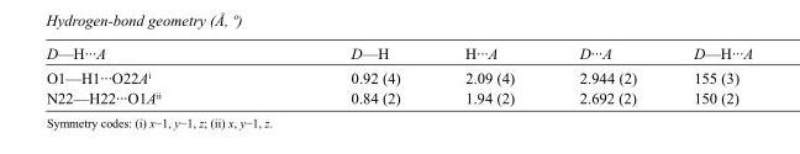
<table><tbody><tr><td>D—H···A</td><td>D—H</td><td>H···A</td><td>D···A</td><td>D—H···A</td></tr><tr><td>O1—H1···O22A<sup>i</sup></td><td>0.92 (4)</td><td>2.09 (4)</td><td>2.944 (2)</td><td>155 (3)</td></tr><tr><td>N22—H22···O1A<sup>ii</sup></td><td>0.84 (2)</td><td>1.94 (2)</td><td>2.692 (2)</td><td>150 (2)</td></tr></tbody></table>